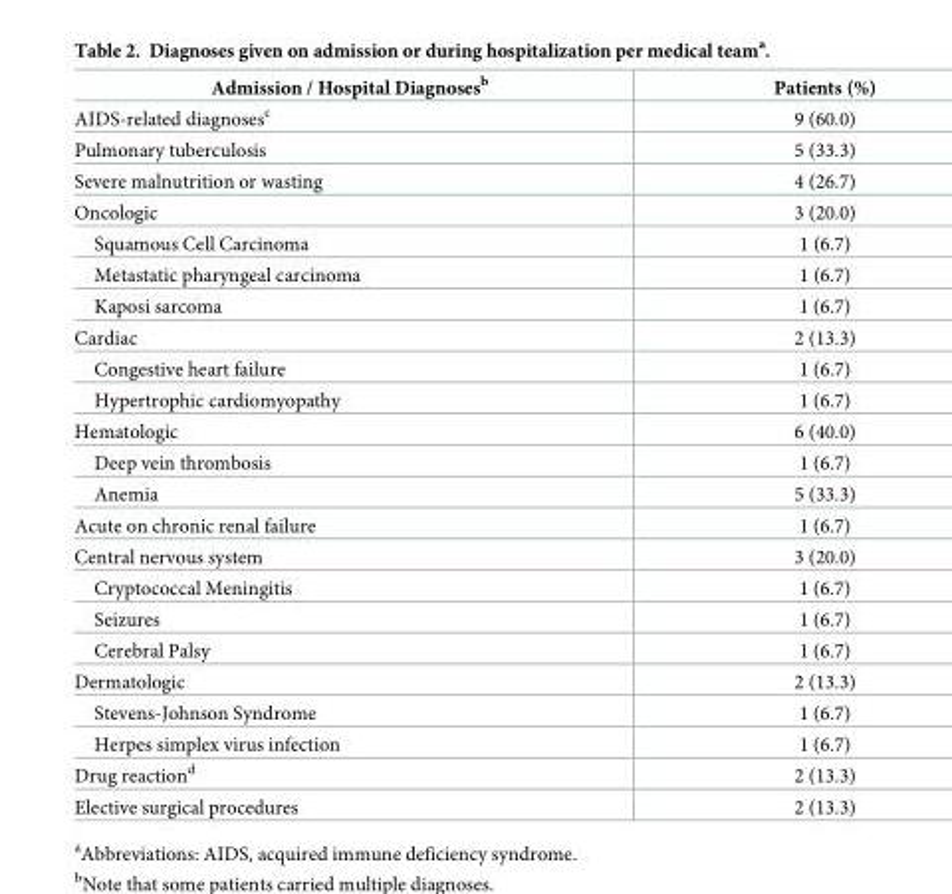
<table><thead><tr><td>Admission / Hospital Diagnoses<sup>b</sup></td><td>Patients (%)</td></tr></thead><tbody><tr><td>AIDS-related diagnoses<sup>c</sup></td><td>9 (60.0)</td></tr><tr><td>Pulmonary tuberculosis</td><td>5 (33.3)</td></tr><tr><td>Severe malnutrition or wasting</td><td>4 (26.7)</td></tr><tr><td>Oncologic</td><td>3 (20.0)</td></tr><tr><td>Squamous Cell Carcinoma</td><td>1 (6.7)</td></tr><tr><td>Metastatic pharyngeal carcinoma</td><td>1 (6.7)</td></tr><tr><td>Kaposi sarcoma</td><td>1 (6.7)</td></tr><tr><td>Cardiac</td><td>2 (13.3)</td></tr><tr><td>Congestive heart failure</td><td>1 (6.7)</td></tr><tr><td>Hypertrophic cardiomyopathy</td><td>1 (6.7)</td></tr><tr><td>Hematologic</td><td>6 (40.0)</td></tr><tr><td>Deep vein thrombosis</td><td>1 (6.7)</td></tr><tr><td>Anemia</td><td>5 (33.3)</td></tr><tr><td>Acute on chronic renal failure</td><td>1 (6.7)</td></tr><tr><td>Central nervous system</td><td>3 (20.0)</td></tr><tr><td>Cryptococcal Meningitis</td><td>1 (6.7)</td></tr><tr><td>Seizures</td><td>1 (6.7)</td></tr><tr><td>Cerebral Palsy</td><td>1 (6.7)</td></tr><tr><td>Dermatologic</td><td>2 (13.3)</td></tr><tr><td>Stevens-Johnson Syndrome</td><td>1 (6.7)</td></tr><tr><td>Herpes simplex virus infection</td><td>1 (6.7)</td></tr><tr><td>Drug reaction<sup>d</sup></td><td>2 (13.3)</td></tr><tr><td>Elective surgical procedures</td><td>2 (13.3)</td></tr></tbody></table>